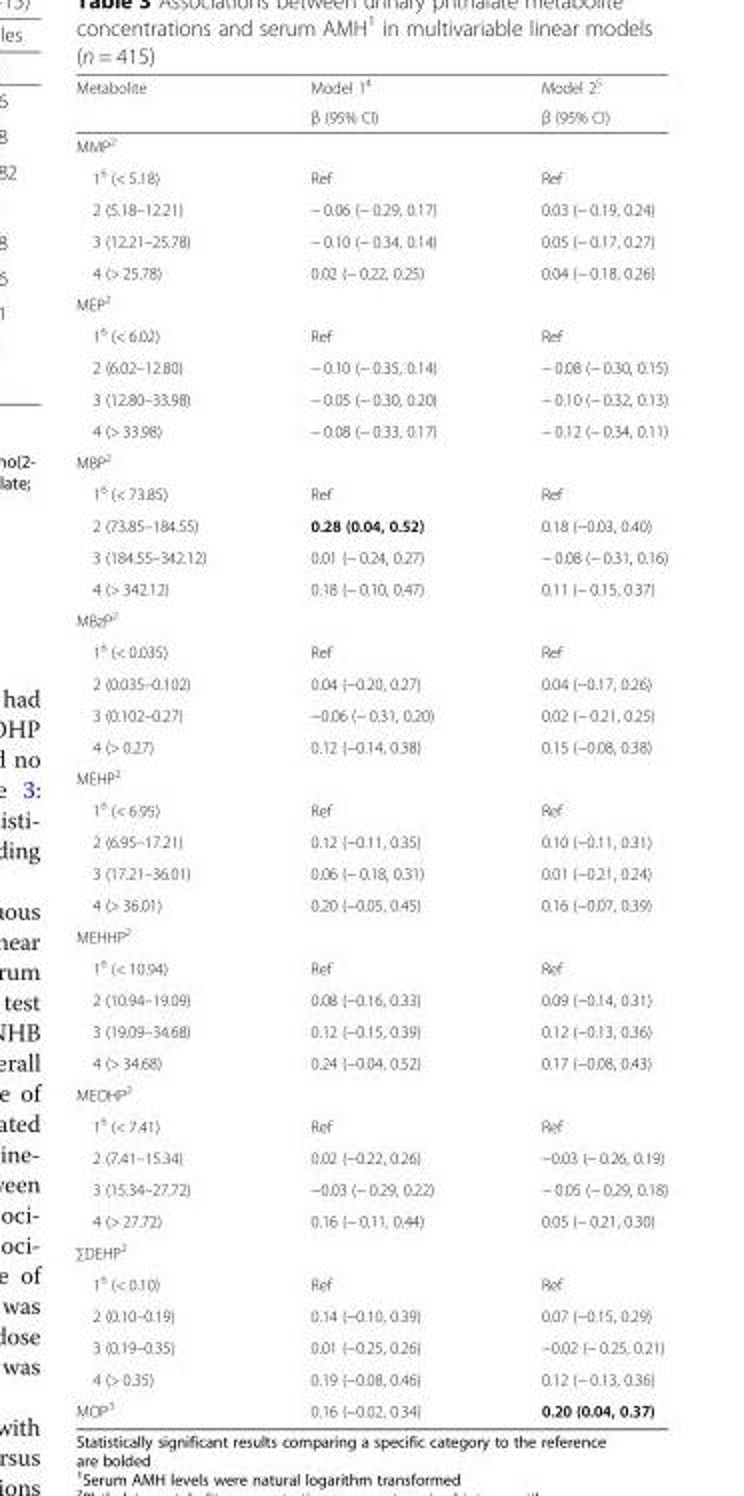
<table><thead><tr><td rowspan="2">Metabolite</td><td rowspan="2">Model 1<sup>4</sup> β (95% CI)</td><td rowspan="2">Model 2<sup>5</sup> β (95% CI)</td></tr><tr></tr></thead><tbody><tr><td colspan="3">MMP<sup>2</sup></td></tr><tr><td>1<sup>6</sup> (&lt; 5.18)</td><td>Ref</td><td>Ref</td></tr><tr><td>2 (5.18–12.21)</td><td>− 0.06 (− 0.29, 0.17)</td><td>0.03 (− 0.19, 0.24)</td></tr><tr><td>3 (12.21–25.78)</td><td>− 0.10 (− 0.34, 0.14)</td><td>0.05 (− 0.17, 0.27)</td></tr><tr><td>4 (&gt; 25.78)</td><td>0.02 (− 0.22, 0.25)</td><td>0.04 (− 0.18, 0.26)</td></tr><tr><td colspan="3">MEP<sup>2</sup></td></tr><tr><td>1<sup>6</sup> (&lt; 6.02)</td><td>Ref</td><td>Ref</td></tr><tr><td>2 (6.02–12.80)</td><td>− 0.10 (− 0.35, 0.14)</td><td>− 0.08 (− 0.30, 0.15)</td></tr><tr><td>3 (12.80–33.98)</td><td>− 0.05 (− 0.30, 0.20)</td><td>− 0.10 (− 0.32, 0.13)</td></tr><tr><td>4 (&gt; 33.98)</td><td>− 0.08 (− 0.33, 0.17)</td><td>− 0.12 (− 0.34, 0.11)</td></tr><tr><td colspan="3">MBP<sup>2</sup></td></tr><tr><td>1<sup>6</sup> (&lt; 73.85)</td><td>Ref</td><td>Ref</td></tr><tr><td>2 (73.85–184.55)</td><td>0.28 (0.04, 0.52)</td><td>0.18 (−0.03, 0.40)</td></tr><tr><td>3 (184.55–342.12)</td><td>0.01 (− 0.24, 0.27)</td><td>− 0.08 (− 0.31, 0.16)</td></tr><tr><td>4 (&gt; 342.12)</td><td>0.18 (− 0.10, 0.47)</td><td>0.11 (− 0.15, 0.37)</td></tr><tr><td colspan="3">MBzP<sup>2</sup></td></tr><tr><td>1<sup>6</sup> (&lt; 0.035)</td><td>Ref</td><td>Ref</td></tr><tr><td>2 (0.035–0.102)</td><td>0.04 (−0.20, 0.27)</td><td>0.04 (−0.17, 0.26)</td></tr><tr><td>3 (0.102–0.27)</td><td>−0.06 (− 0.31, 0.20)</td><td>0.02 (− 0.21, 0.25)</td></tr><tr><td>4 (&gt; 0.27)</td><td>0.12 (−0.14, 0.38)</td><td>0.15 (−0.08, 0.38)</td></tr><tr><td colspan="3">MEHP<sup>2</sup></td></tr><tr><td>1<sup>6</sup> (&lt; 6.95)</td><td>Ref</td><td>Ref</td></tr><tr><td>2 (6.95–17.21)</td><td>0.12 (−0.11, 0.35)</td><td>0.10 (−0.11, 0.31)</td></tr><tr><td>3 (17.21–36.01)</td><td>0.06 (− 0.18, 0.31)</td><td>0.01 (−0.21, 0.24)</td></tr><tr><td>4 (&gt; 36.01)</td><td>0.20 (−0.05, 0.45)</td><td>0.16 (−0.07, 0.39)</td></tr><tr><td colspan="3">MEHHP<sup>2</sup></td></tr><tr><td>1<sup>6</sup> (&lt; 10.94)</td><td>Ref</td><td>Ref</td></tr><tr><td>2 (10.94–19.09)</td><td>0.08 (−0.16, 0.33)</td><td>0.09 (−0.14, 0.31)</td></tr><tr><td>3 (19.09–34.68)</td><td>0.12 (−0.15, 0.39)</td><td>0.12 (−0.13, 0.36)</td></tr><tr><td>4 (&gt; 34.68)</td><td>0.24 (−0.04, 0.52)</td><td>0.17 (−0.08, 0.43)</td></tr><tr><td colspan="3">MEOHP<sup>2</sup></td></tr><tr><td>1<sup>6</sup> (&lt; 7.41)</td><td>Ref</td><td>Ref</td></tr><tr><td>2 (7.41–15.34)</td><td>0.02 (−0.22, 0.26)</td><td>−0.03 (− 0.26, 0.19)</td></tr><tr><td>3 (15.34–27.72)</td><td>−0.03 (− 0.29, 0.22)</td><td>− 0.05 (− 0.29, 0.18)</td></tr><tr><td>4 (&gt; 27.72)</td><td>0.16 (− 0.11, 0.44)</td><td>0.05 (− 0.21, 0.30)</td></tr><tr><td colspan="3">∑DEHP<sup>2</sup></td></tr><tr><td>1<sup>6</sup> (&lt; 0.10)</td><td>Ref</td><td>Ref</td></tr><tr><td>2 (0.10–0.19)</td><td>0.14 (−0.10, 0.39)</td><td>0.07 (−0.15, 0.29)</td></tr><tr><td>3 (0.19–0.35)</td><td>0.01 (−0.25, 0.26)</td><td>−0.02 (− 0.25, 0.21)</td></tr><tr><td>4 (&gt; 0.35)</td><td>0.19 (−0.08, 0.46)</td><td>0.12 (− 0.13, 0.36)</td></tr><tr><td>MOP<sup>3</sup></td><td>0.16 (−0.02, 0.34)</td><td>0.20 (0.04, 0.37)</td></tr></tbody></table>